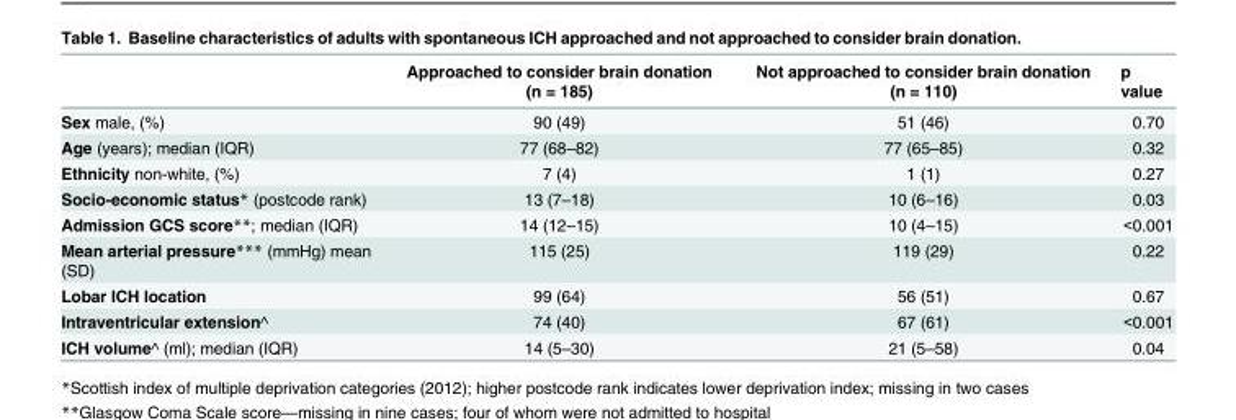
<table><thead><tr><td></td><td>Approached to consider brain donation (n = 185)</td><td>Not approached to consider brain donation (n = 110)</td><td>p value</td></tr></thead><tbody><tr><td>Sex male, (%)</td><td>90 (49)</td><td>51 (46)</td><td>0.70</td></tr><tr><td>Age (years); median (IQR)</td><td>77 (68–82)</td><td>77 (65–85)</td><td>0.32</td></tr><tr><td>Ethnicity non-white, (%)</td><td>7 (4)</td><td>1 (1)</td><td>0.27</td></tr><tr><td>Socio-economic status* (postcode rank)</td><td>13 (7–18)</td><td>10 (6–16)</td><td>0.03</td></tr><tr><td>Admission GCS score**; median (IQR)</td><td>14 (12–15)</td><td>10 (4–15)</td><td>&lt;0.001</td></tr><tr><td>Mean arterial pressure*** (mmHg) mean (SD)</td><td>115 (25)</td><td>119 (29)</td><td>0.22</td></tr><tr><td>Lobar ICH location</td><td>99 (64)</td><td>56 (51)</td><td>0.67</td></tr><tr><td>Intraventricular extension^</td><td>74 (40)</td><td>67 (61)</td><td>&lt;0.001</td></tr><tr><td>ICH volume^ (ml); median (IQR)</td><td>14 (5–30)</td><td>21 (5–58)</td><td>0.04</td></tr></tbody></table>